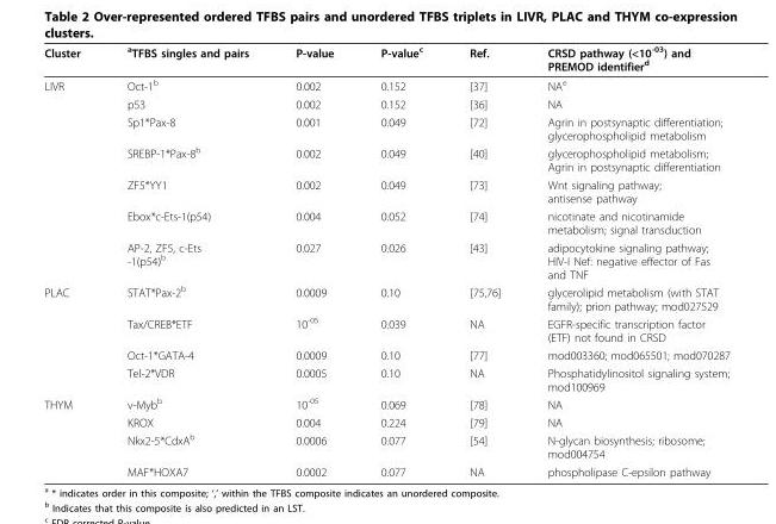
<table><thead><tr><td>Cluster</td><td><sup>a</sup>TFBS singles and pairs</td><td>P-value</td><td>P-value<sup>c</sup></td><td>Ref.</td><td>CRSD pathway (&lt;10<sup>-03</sup>) and PREMOD identifier<sup>d</sup></td></tr></thead><tbody><tr><td rowspan="7">LIVR</td><td>Oct-1<sup>b</sup></td><td>0.002</td><td>0.152</td><td>[37]</td><td>NA<sup>e</sup></td></tr><tr><td>p53</td><td>0.002</td><td>0.152</td><td>[36]</td><td>NA</td></tr><tr><td>Sp1*Pax-8</td><td>0.001</td><td>0.049</td><td>[72]</td><td>Agrin in postsynaptic differentiation; glycerophospholipid metabolism</td></tr><tr><td>SREBP-1*Pax-8<sup>b</sup></td><td>0.002</td><td>0.049</td><td>[40]</td><td>glycerophospholipid metabolism; Agrin in postsynaptic differentiation</td></tr><tr><td>ZF5*YY1</td><td>0.002</td><td>0.049</td><td>[73]</td><td>Wnt signaling pathway; antisense pathway</td></tr><tr><td>Ebox*c-Ets-1(p54)</td><td>0.004</td><td>0.052</td><td>[74]</td><td>nicotinate and nicotinamide metabolism; signal transduction</td></tr><tr><td>AP-2, ZF5, c-Ets -1(p54)<sup>b</sup></td><td>0.027</td><td>0.026</td><td>[43]</td><td>adipocytokine signaling pathway; HIV-I Nef: negative effector of Fas and TNF</td></tr><tr><td rowspan="4">PLAC</td><td>STAT*Pax-2<sup>b</sup></td><td>0.0009</td><td>0.10</td><td>[75,76]</td><td>glycerolipid metabolism (with STAT family); prion pathway; mod027529</td></tr><tr><td>Tax/CREB*ETF</td><td>10<sup>-05</sup></td><td>0.039</td><td>NA</td><td>EGFR-specific transcription factor (ETF) not found in CRSD</td></tr><tr><td>Oct-1*GATA-4</td><td>0.0009</td><td>0.10</td><td>[77]</td><td>mod003360; mod065501; mod070287</td></tr><tr><td>Tel-2*VDR</td><td>0.0005</td><td>0.10</td><td>NA</td><td>Phosphatidylinositol signaling system; mod100969</td></tr><tr><td rowspan="4">THYM</td><td>v-Myb<sup>b</sup></td><td>10<sup>-05</sup></td><td>0.069</td><td>[78]</td><td>NA</td></tr><tr><td>KROX</td><td>0.004</td><td>0.224</td><td>[79]</td><td>NA</td></tr><tr><td>Nkx2-5*CdxA<sup>b</sup></td><td>0.0006</td><td>0.077</td><td>[54]</td><td>N-glycan biosynthesis; ribosome; mod004754</td></tr><tr><td>MAF*HOXA7</td><td>0.0002</td><td>0.077</td><td>NA</td><td>phospholipase C-epsilon pathway</td></tr></tbody></table>